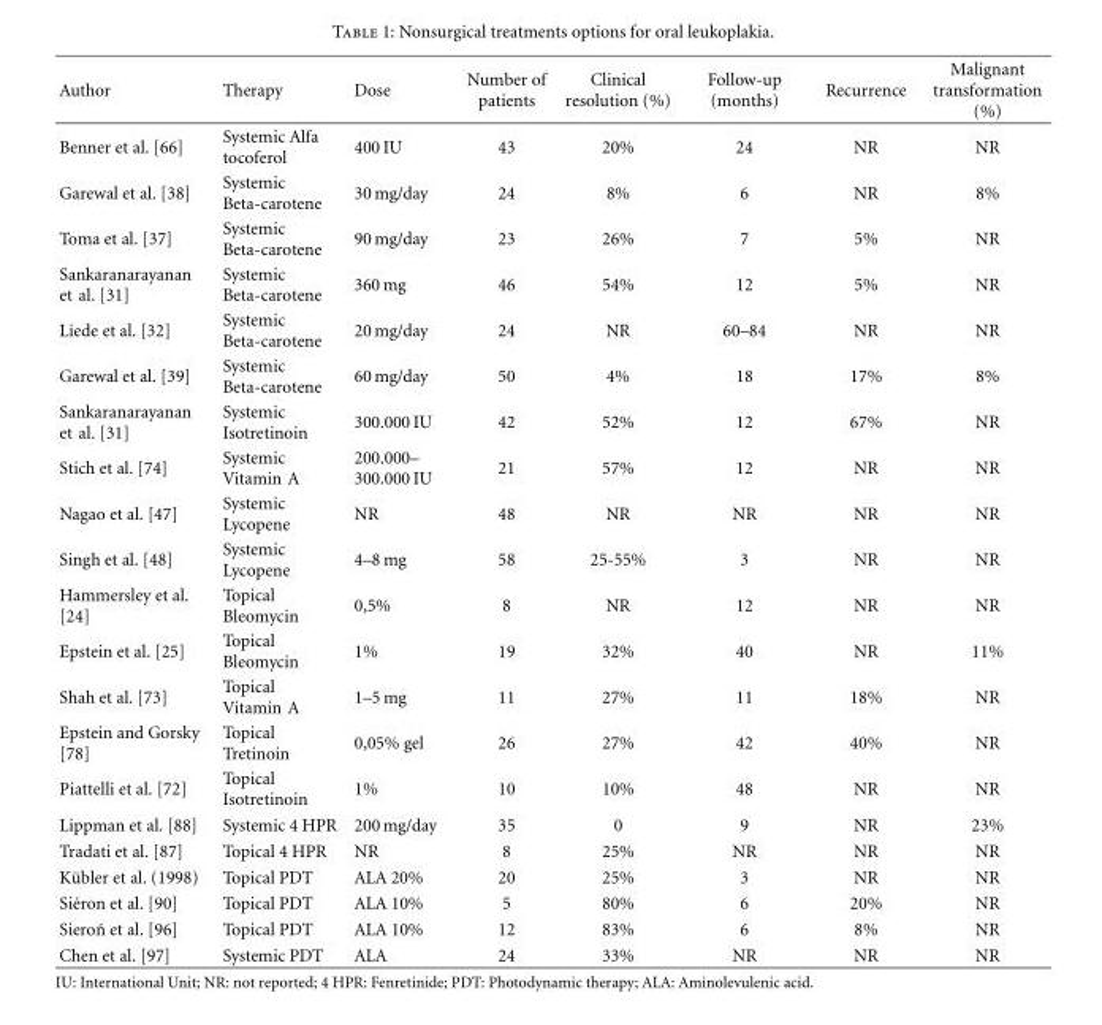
<table><thead><tr><td>Author</td><td>Therapy</td><td>Dose</td><td>Number of patients</td><td>Clinical resolution (%)</td><td>Follow-up (months)</td><td>Recurrence</td><td>Malignant transformation (%)</td></tr></thead><tbody><tr><td>Benner et al. [66]</td><td>Systemic Alfa tocoferol</td><td>400 IU</td><td>43</td><td>20%</td><td>24</td><td>NR</td><td>NR</td></tr><tr><td>Garewal et al. [38]</td><td>Systemic Beta-carotene</td><td>30 mg/day</td><td>24</td><td>8%</td><td>6</td><td>NR</td><td>8%</td></tr><tr><td>Toma et al. [37]</td><td>Systemic Beta-carotene</td><td>90 mg/day</td><td>23</td><td>26%</td><td>7</td><td>5%</td><td>NR</td></tr><tr><td>Sankaranarayanan et al. [31]</td><td>Systemic Beta-carotene</td><td>360 mg</td><td>46</td><td>54%</td><td>12</td><td>5%</td><td>NR</td></tr><tr><td>Liede et al. [32]</td><td>Systemic Beta-carotene</td><td>20 mg/day</td><td>24</td><td>NR</td><td>60–84</td><td>NR</td><td>NR</td></tr><tr><td>Garewal et al. [39]</td><td>Systemic Beta-carotene</td><td>60 mg/day</td><td>50</td><td>4%</td><td>18</td><td>17%</td><td>8%</td></tr><tr><td>Sankaranarayanan et al. [31]</td><td>Systemic Isotretinoin</td><td>300.000 IU</td><td>42</td><td>52%</td><td>12</td><td>67%</td><td>NR</td></tr><tr><td>Stich et al. [74]</td><td>Systemic Vitamin A</td><td>200.000– 300.000 IU</td><td>21</td><td>57%</td><td>12</td><td>NR</td><td>NR</td></tr><tr><td>Nagao et al. [47]</td><td>Systemic Lycopene</td><td>NR</td><td>48</td><td>NR</td><td>NR</td><td>NR</td><td>NR</td></tr><tr><td>Singh et al. [48]</td><td>Systemic Lycopene</td><td>4–8 mg</td><td>58</td><td>25-55%</td><td>3</td><td>NR</td><td>NR</td></tr><tr><td>Hammersley et al. [24]</td><td>Topical Bleomycin</td><td>0,5%</td><td>8</td><td>NR</td><td>12</td><td>NR</td><td>NR</td></tr><tr><td>Epstein et al. [25]</td><td>Topical Bleomycin</td><td>1%</td><td>19</td><td>32%</td><td>40</td><td>NR</td><td>11%</td></tr><tr><td>Shah et al. [73]</td><td>Topical Vitamin A</td><td>1–5 mg</td><td>11</td><td>27%</td><td>11</td><td>18%</td><td>NR</td></tr><tr><td>Epstein and Gorsky [78]</td><td>Topical Tretinoin</td><td>0,05% gel</td><td>26</td><td>27%</td><td>42</td><td>40%</td><td>NR</td></tr><tr><td>Piattelli et al. [72]</td><td>Topical Isotretinoin</td><td>1%</td><td>10</td><td>10%</td><td>48</td><td>NR</td><td>NR</td></tr><tr><td>Lippman et al. [88]</td><td>Systemic 4 HPR</td><td>200 mg/day</td><td>35</td><td>0</td><td>9</td><td>NR</td><td>23%</td></tr><tr><td>Tradati et al. [87]</td><td>Topical 4 HPR</td><td>NR</td><td>8</td><td>25%</td><td>NR</td><td>NR</td><td>NR</td></tr><tr><td>K¨ubler et al. (1998)</td><td>Topical PDT</td><td>ALA 20%</td><td>20</td><td>25%</td><td>3</td><td>NR</td><td>NR</td></tr><tr><td>Si´eron et al. [90]</td><td>Topical PDT</td><td>ALA 10%</td><td>5</td><td>80%</td><td>6</td><td>20%</td><td>NR</td></tr><tr><td>Siero´n et al. [96]</td><td>Topical PDT</td><td>ALA 10%</td><td>12</td><td>83%</td><td>6</td><td>8%</td><td>NR</td></tr><tr><td>Chen et al. [97]</td><td>Systemic PDT</td><td>ALA</td><td>24</td><td>33%</td><td>NR</td><td>NR</td><td>NR</td></tr></tbody></table>